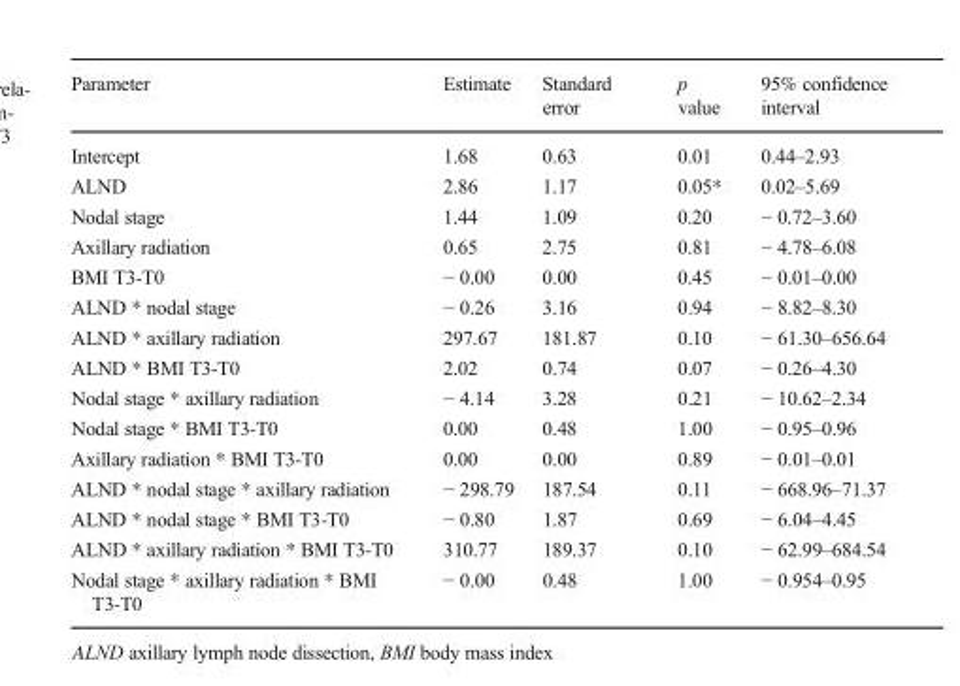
<table><thead><tr><td>Parameter</td><td>Estimate</td><td>Standard error</td><td>p value</td><td>95% confidence interval</td></tr></thead><tbody><tr><td>Intercept</td><td>1.68</td><td>0.63</td><td>0.01</td><td>0.44–2.93</td></tr><tr><td>ALND</td><td>2.86</td><td>1.17</td><td>0.05*</td><td>0.02–5.69</td></tr><tr><td>Nodal stage</td><td>1.44</td><td>1.09</td><td>0.20</td><td>− 0.72–3.60</td></tr><tr><td>Axillary radiation</td><td>0.65</td><td>2.75</td><td>0.81</td><td>− 4.78–6.08</td></tr><tr><td>BMI T3-T0</td><td>− 0.00</td><td>0.00</td><td>0.45</td><td>− 0.01–0.00</td></tr><tr><td>ALND * nodal stage</td><td>− 0.26</td><td>3.16</td><td>0.94</td><td>− 8.82–8.30</td></tr><tr><td>ALND * axillary radiation</td><td>297.67</td><td>181.87</td><td>0.10</td><td>− 61.30–656.64</td></tr><tr><td>ALND * BMI T3-T0</td><td>2.02</td><td>0.74</td><td>0.07</td><td>− 0.26–4.30</td></tr><tr><td>Nodal stage * axillary radiation</td><td>− 4.14</td><td>3.28</td><td>0.21</td><td>− 10.62–2.34</td></tr><tr><td>Nodal stage * BMI T3-T0</td><td>0.00</td><td>0.48</td><td>1.00</td><td>− 0.95–0.96</td></tr><tr><td>Axillary radiation * BMI T3-T0</td><td>0.00</td><td>0.00</td><td>0.89</td><td>− 0.01–0.01</td></tr><tr><td>ALND * nodal stage * axillary radiation</td><td>− 298.79</td><td>187.54</td><td>0.11</td><td>− 668.96–71.37</td></tr><tr><td>ALND * nodal stage * BMI T3-T0</td><td>− 0.80</td><td>1.87</td><td>0.69</td><td>− 6.04–4.45</td></tr><tr><td>ALND * axillary radiation * BMI T3-T0</td><td>310.77</td><td>189.37</td><td>0.10</td><td>− 62.99–684.54</td></tr><tr><td>Nodal stage * axillary radiation * BMI T3-T0</td><td>− 0.00</td><td>0.48</td><td>1.00</td><td>− 0.954–0.95</td></tr></tbody></table>